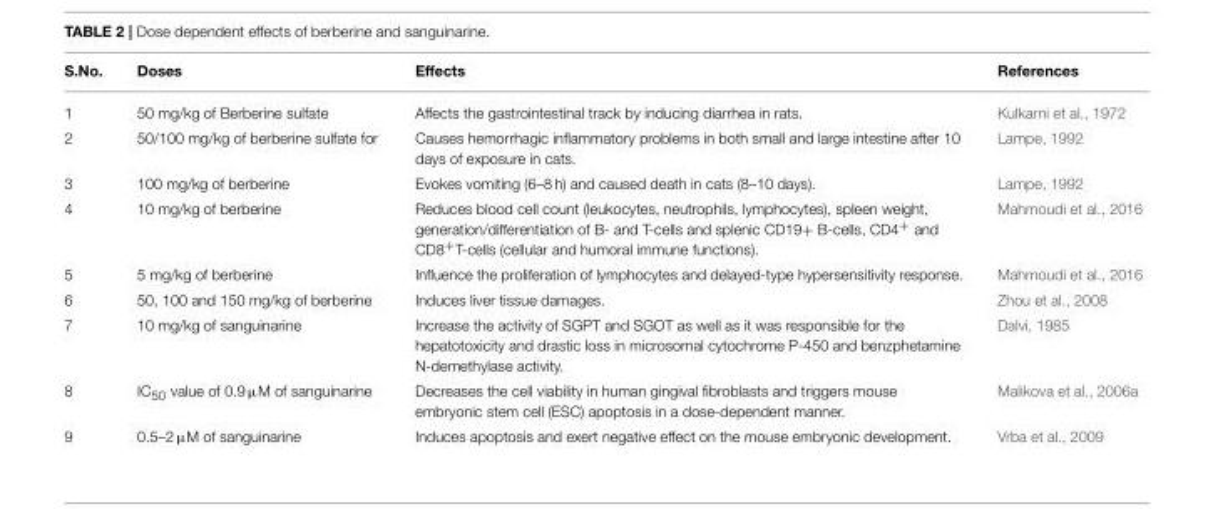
<table><thead><tr><td>S.No.</td><td>Doses</td><td>Effects</td><td>References</td></tr></thead><tbody><tr><td>1</td><td>50 mg/kg of Berberine sulfate</td><td>Affects the gastrointestinal track by inducing diarrhea in rats.</td><td>Kulkarni et al., 1972</td></tr><tr><td>2</td><td>50/100 mg/kg of berberine sulfate for</td><td>Causes hemorrhagic inflammatory problems in both small and large intestine after 10 days of exposure in cats.</td><td>Lampe, 1992</td></tr><tr><td>3</td><td>100 mg/kg of berberine</td><td>Evokes vomiting (6–8 h) and caused death in cats (8–10 days).</td><td>Lampe, 1992</td></tr><tr><td>4</td><td>10 mg/kg of berberine</td><td>Reduces blood cell count (leukocytes, neutrophils, lymphocytes), spleen weight, generation/differentiation of B- and T-cells and splenic CD19+ B-cells, CD4<sup>+</sup> and CD8<sup>+</sup>T-cells (cellular and humoral immune functions).</td><td>Mahmoudi et al., 2016</td></tr><tr><td>5</td><td>5 mg/kg of berberine</td><td>Influence the proliferation of lymphocytes and delayed-type hypersensitivity response.</td><td>Mahmoudi et al., 2016</td></tr><tr><td>6</td><td>50, 100 and 150 mg/kg of berberine</td><td>Induces liver tissue damages.</td><td>Zhou et al., 2008</td></tr><tr><td>7</td><td>10 mg/kg of sanguinarine</td><td>Increase the activity of SGPT and SGOT as well as it was responsible for the hepatotoxicity and drastic loss in microsomal cytochrome P-450 and benzphetamine N-demethylase activity.</td><td>Dalvi, 1985</td></tr><tr><td>8</td><td>IC<sub>50</sub> value of 0.9 µM of sanguinarine</td><td>Decreases the cell viability in human gingival fibroblasts and triggers mouse embryonic stem cell (ESC) apoptosis in a dose-dependent manner.</td><td>Malikova et al., 2006a</td></tr><tr><td>9</td><td>0.5–2 µM of sanguinarine</td><td>Induces apoptosis and exert negative effect on the mouse embryonic development.</td><td>Vrba et al., 2009</td></tr></tbody></table>